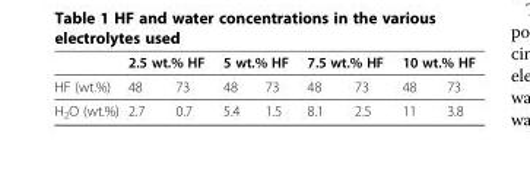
<table><thead><tr><td rowspan="2">HF (wt.%)</td><td colspan="2">2.5 wt.% HF</td><td colspan="2">5 wt.% HF</td><td colspan="2">7.5 wt.% HF</td><td colspan="2">10 wt.% HF</td></tr><tr><td>48</td><td>73</td><td>48</td><td>73</td><td>48</td><td>73</td><td>48</td><td>73</td></tr></thead><tbody><tr><td>H<sub>2</sub>O (wt.%)</td><td>2.7</td><td>0.7</td><td>5.4</td><td>1.5</td><td>8.1</td><td>2.5</td><td>11</td><td>3.8</td></tr></tbody></table>